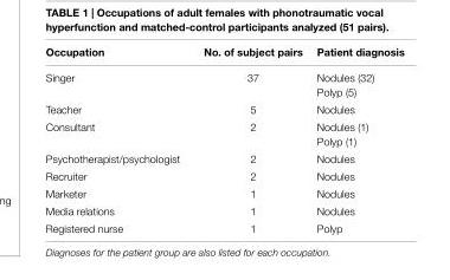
<table><thead><tr><td>Occupation</td><td>no. of subject pairs</td><td>Patient diagnosis</td></tr></thead><tbody><tr><td>Singer</td><td>37</td><td>Nodules (32) Polyp (5)</td></tr><tr><td>Teacher</td><td>5</td><td>Nodules</td></tr><tr><td>Consultant</td><td>2</td><td>Nodules (1) Polyp (1)</td></tr><tr><td>Psychotherapist/psychologist</td><td>2</td><td>Nodules</td></tr><tr><td>Recruiter</td><td>2</td><td>Nodules</td></tr><tr><td>Marketer</td><td>1</td><td>Nodules</td></tr><tr><td>Media relations</td><td>1</td><td>Nodules</td></tr><tr><td>Registered nurse</td><td>1</td><td>Polyp</td></tr></tbody></table>